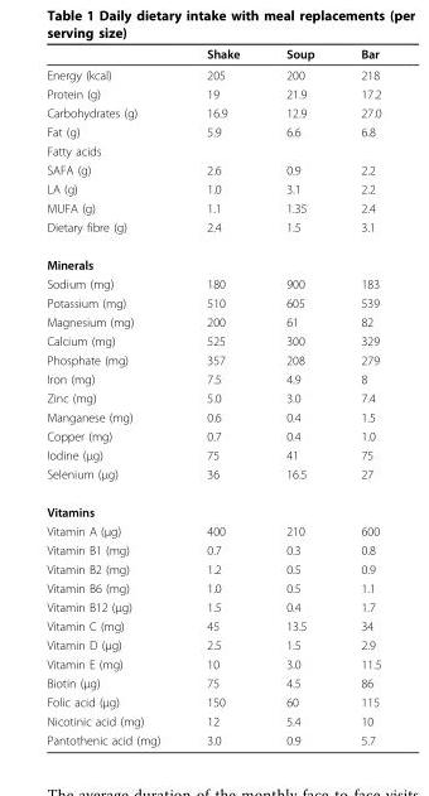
<table><thead><tr><td></td><td>Shake</td><td>Soup</td><td>Bar</td></tr></thead><tbody><tr><td>Energy (kcal)</td><td>205</td><td>200</td><td>218</td></tr><tr><td>Protein (g)</td><td>19</td><td>21.9</td><td>17.2</td></tr><tr><td>Carbohydrates (g)</td><td>16.9</td><td>12.9</td><td>27.0</td></tr><tr><td>Fat (g)</td><td>5.9</td><td>6.6</td><td>6.8</td></tr><tr><td colspan="4">Fatty acids</td></tr><tr><td>SAFA (g)</td><td>2.6</td><td>0.9</td><td>2.2</td></tr><tr><td>LA (g)</td><td>1.0</td><td>3.1</td><td>2.2</td></tr><tr><td>MUFA (g)</td><td>1.1</td><td>1.35</td><td>2.4</td></tr><tr><td>Dietary fibre (g)</td><td>2.4</td><td>1.5</td><td>3.1</td></tr><tr><td colspan="4">Minerals</td></tr><tr><td>Sodium (mg)</td><td>180</td><td>900</td><td>183</td></tr><tr><td>Potassium (mg)</td><td>510</td><td>605</td><td>539</td></tr><tr><td>Magnesium (mg)</td><td>200</td><td>61</td><td>82</td></tr><tr><td>Calcium (mg)</td><td>525</td><td>300</td><td>329</td></tr><tr><td>Phosphate (mg)</td><td>357</td><td>208</td><td>279</td></tr><tr><td>Iron (mg)</td><td>7.5</td><td>4.9</td><td>8</td></tr><tr><td>Zinc (mg)</td><td>5.0</td><td>3.0</td><td>7.4</td></tr><tr><td>Manganese (mg)</td><td>0.6</td><td>0.4</td><td>1.5</td></tr><tr><td>Copper (mg)</td><td>0.7</td><td>0.4</td><td>1.0</td></tr><tr><td>Iodine (μg)</td><td>75</td><td>41</td><td>75</td></tr><tr><td>Selenium (μg)</td><td>36</td><td>16.5</td><td>27</td></tr><tr><td colspan="4">Vitamins</td></tr><tr><td>Vitamin A (μg)</td><td>400</td><td>210</td><td>600</td></tr><tr><td>Vitamin B1 (mg)</td><td>0.7</td><td>0.3</td><td>0.8</td></tr><tr><td>Vitamin B2 (mg)</td><td>1.2</td><td>0.5</td><td>0.9</td></tr><tr><td>Vitamin B6 (mg)</td><td>1.0</td><td>0.5</td><td>1.1</td></tr><tr><td>Vitamin B12 (μg)</td><td>1.5</td><td>0.4</td><td>1.7</td></tr><tr><td>Vitamin C (mg)</td><td>45</td><td>13.5</td><td>34</td></tr><tr><td>Vitamin D (μg)</td><td>2.5</td><td>1.5</td><td>2.9</td></tr><tr><td>Vitamin E (mg)</td><td>10</td><td>3.0</td><td>11.5</td></tr><tr><td>Biotin (μg)</td><td>75</td><td>4.5</td><td>86</td></tr><tr><td>Folic acid (μg)</td><td>150</td><td>60</td><td>115</td></tr><tr><td>Nicotinic acid (mg)</td><td>12</td><td>5.4</td><td>10</td></tr><tr><td>Pantothenic acid (mg)</td><td>3.0</td><td>0.9</td><td>5.7</td></tr></tbody></table>